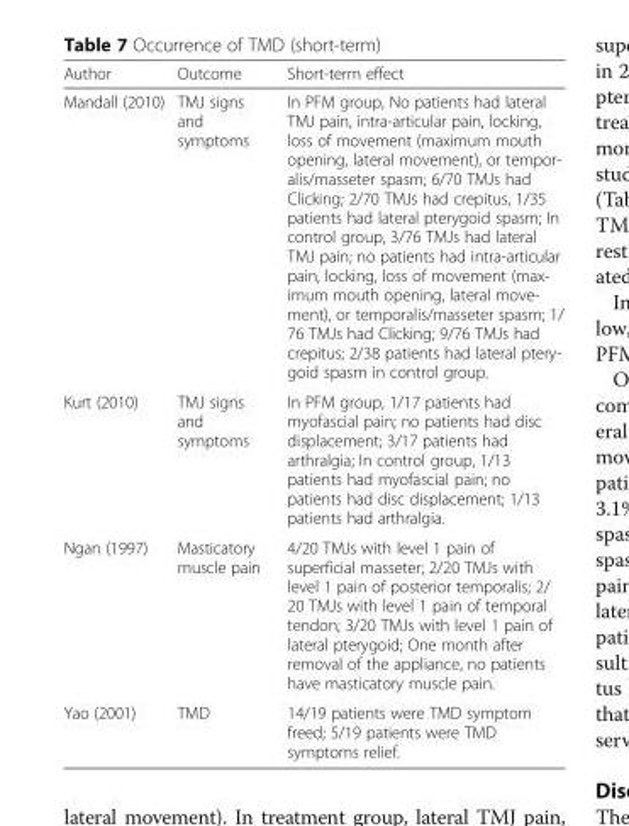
<table><thead><tr><td>Author</td><td>Outcome</td><td>Short-term effect</td></tr></thead><tbody><tr><td>Mandall (2010)</td><td>TMJ signs and symptoms</td><td>In PFM group, No patients had lateral TMJ pain, intra-articular pain, locking, loss of movement (maximum mouth opening, lateral movement), or tempor- alis/masseter spasm; 6/70 TMJs had Clicking; 2/70 TMJs had crepitus, 1/35 patients had lateral pterygoid spasm; In control group, 3/76 TMJs had lateral TMJ pain; no patients had intra-articular pain, locking, loss of movement (max- imum mouth opening, lateral move- ment), or temporalis/masseter spasm; 1/ 76 TMJs had Clicking; 9/76 TMJs had crepitus; 2/38 patients had lateral ptery- goid spasm in control group.</td></tr><tr><td>Kurt (2010)</td><td>TMJ signs and symptoms</td><td>In PFM group, 1/17 patients had myofascial pain; no patients had disc displacement; 3/17 patients had arthralgia; In control group, 1/13 patients had myofascial pain; no patients had disc displacement; 1/13 patients had arthralgia.</td></tr><tr><td>Ngan (1997)</td><td>Masticatory muscle pain</td><td>4/20 TMJs with level 1 pain of superficial masseter; 2/20 TMJs with level 1 pain of posterior temporalis; 2/ 20 TMJs with level 1 pain of temporal tendon; 3/20 TMJs with level 1 pain of lateral pterygoid; One month after removal of the appliance, no patients have masticatory muscle pain.</td></tr><tr><td>Yao (2001)</td><td>TMD</td><td>14/19 patients were TMD symptom freed; 5/19 patients were TMD symptoms relief.</td></tr></tbody></table>